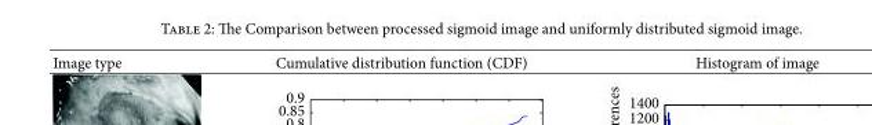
<table><thead><tr><td>Image type</td><td>Cumulative distribution function (CDF)</td><td>Histogram of image</td></tr></thead><tbody></tbody></table>